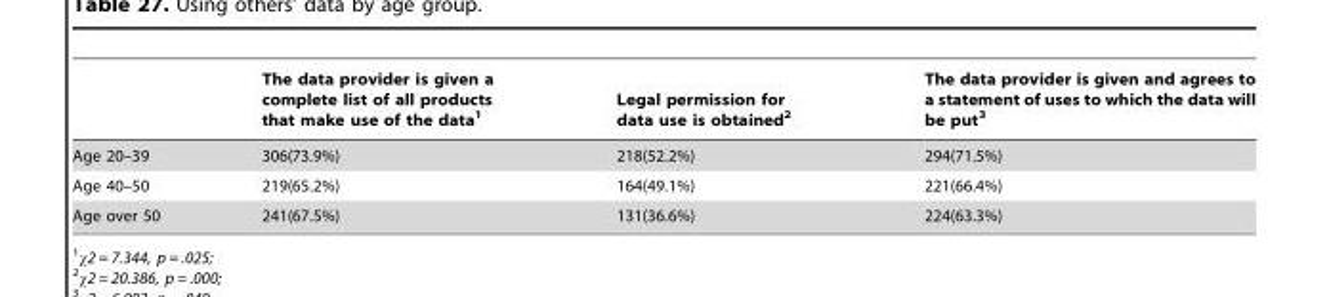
<table><thead><tr><td></td><td>The data provider is given a complete list of all products that make use of the data<sup>1</sup></td><td>Legal permission for data use is obtained<sup>2</sup></td><td>The data provider is given and agrees to a statement of uses to which the data will be put<sup>3</sup></td></tr></thead><tbody><tr><td>Age 20–39</td><td>306(73.9%)</td><td>218(52.2%)</td><td>294(71.5%)</td></tr><tr><td>Age 40–50</td><td>219(65.2%)</td><td>164(49.1%)</td><td>221(66.4%)</td></tr><tr><td>Age over 50</td><td>241(67.5%)</td><td>131(36.6%)</td><td>224(63.3%)</td></tr></tbody></table>